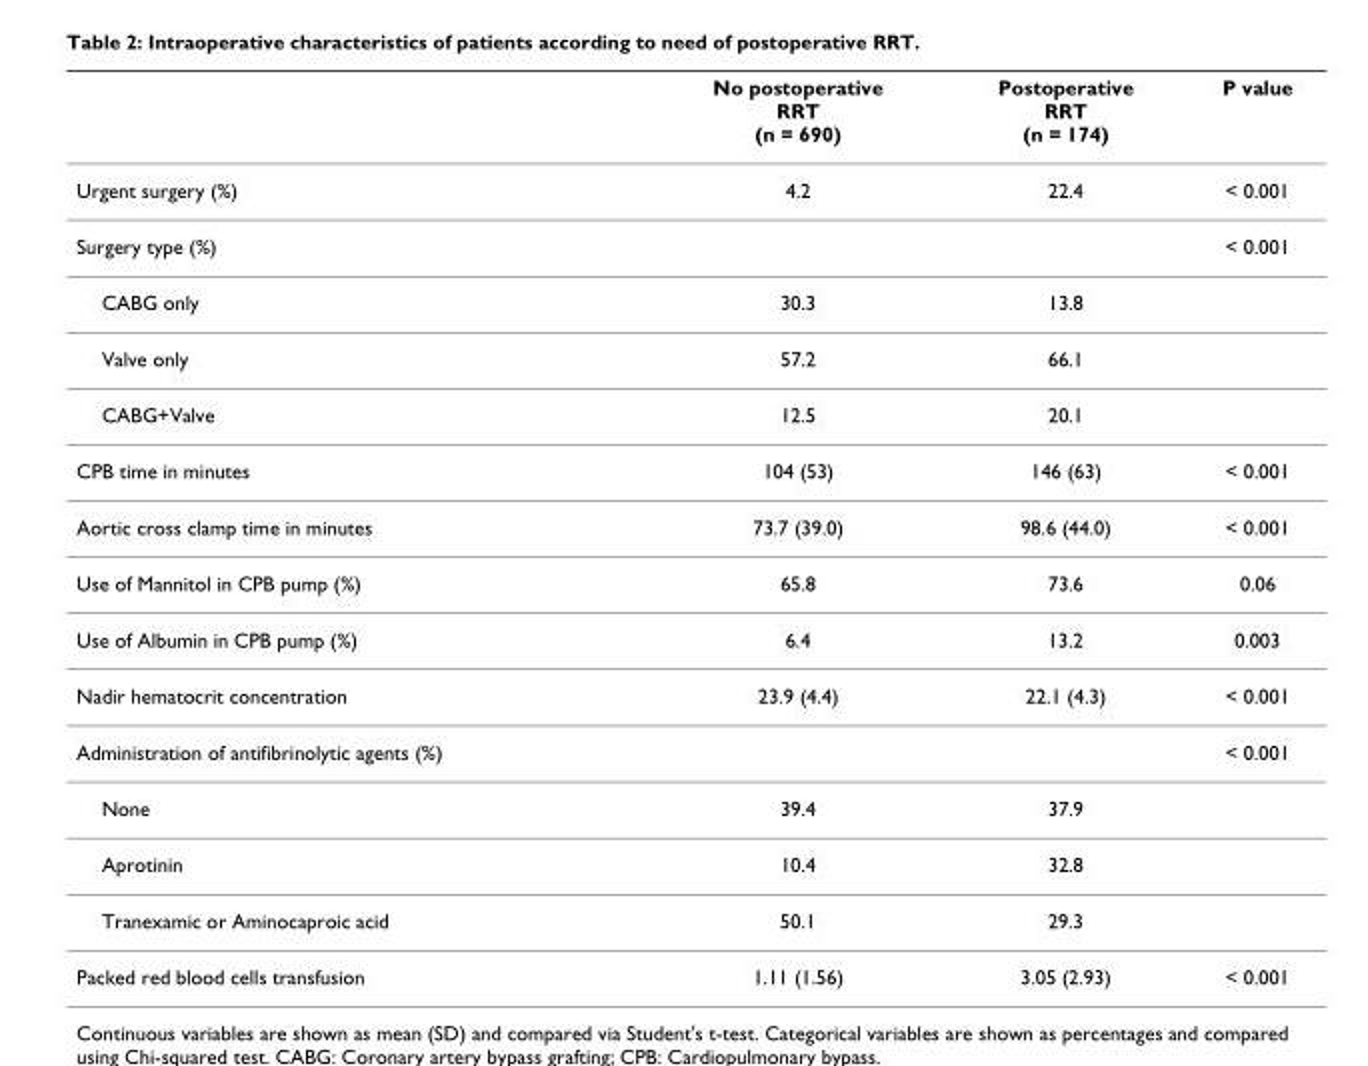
<table><thead><tr><td></td><td>No postoperative RRT (n = 690)</td><td>Postoperative RRT (n = 174)</td><td>P value</td></tr></thead><tbody><tr><td>Urgent surgery (%)</td><td>4.2</td><td>22.4</td><td>&lt; 0.001</td></tr><tr><td>Surgery type (%)</td><td></td><td></td><td>&lt; 0.001</td></tr><tr><td>CABG only</td><td>30.3</td><td>13.8</td><td></td></tr><tr><td>Valve only</td><td>57.2</td><td>66.1</td><td></td></tr><tr><td>CABG+Valve</td><td>12.5</td><td>20.1</td><td></td></tr><tr><td>CPB time in minutes</td><td>104 (53)</td><td>146 (63)</td><td>&lt; 0.001</td></tr><tr><td>Aortic cross clamp time in minutes</td><td>73.7 (39.0)</td><td>98.6 (44.0)</td><td>&lt; 0.001</td></tr><tr><td>Use of Mannitol in CPB pump (%)</td><td>65.8</td><td>73.6</td><td>0.06</td></tr><tr><td>Use of Albumin in CPB pump (%)</td><td>6.4</td><td>13.2</td><td>0.003</td></tr><tr><td>Nadir hematocrit concentration</td><td>23.9 (4.4)</td><td>22.1 (4.3)</td><td>&lt; 0.001</td></tr><tr><td>Administration of antifibrinolytic agents (%)</td><td></td><td></td><td>&lt; 0.001</td></tr><tr><td>None</td><td>39.4</td><td>37.9</td><td></td></tr><tr><td>Aprotinin</td><td>10.4</td><td>32.8</td><td></td></tr><tr><td>Tranexamic or Aminocaproic acid</td><td>50.1</td><td>29.3</td><td></td></tr><tr><td>Packed red blood cells transfusion</td><td>1.11 (1.56)</td><td>3.05 (2.93)</td><td>&lt; 0.001</td></tr></tbody></table>